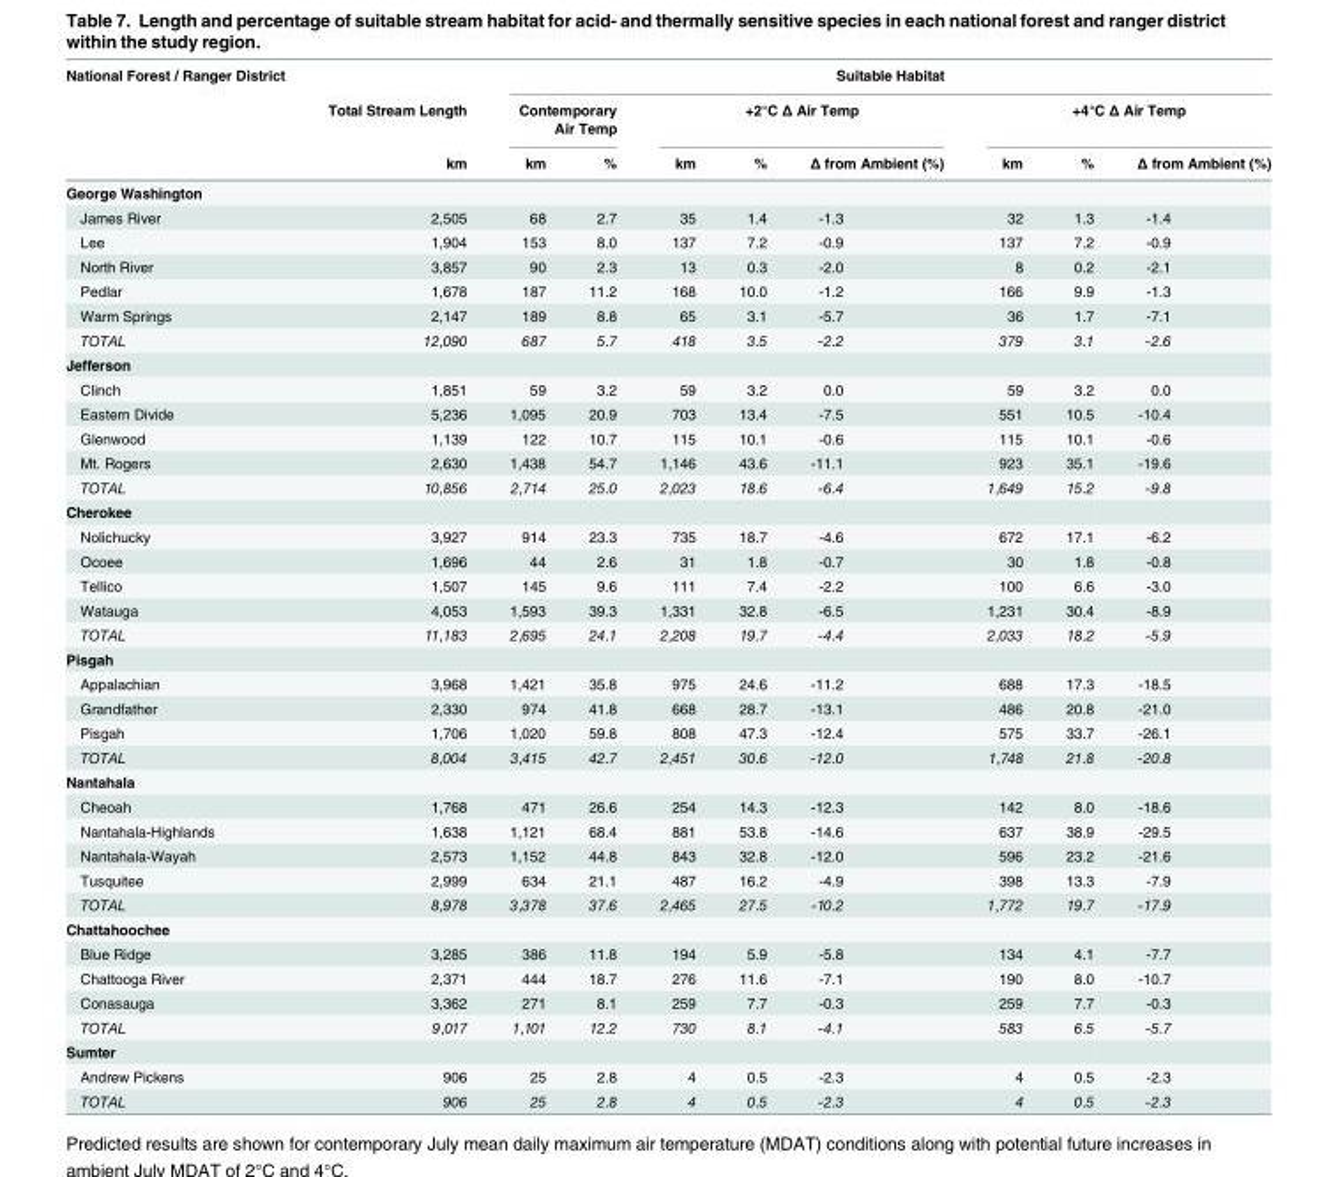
<table><thead><tr><td rowspan="3">National Forest / Ranger District</td><td rowspan="3">Total Stream Length km</td><td colspan="8">Suitable Habitat</td></tr><tr><td colspan="2">Contemporary Air Temp</td><td colspan="3">+2°C Δ Air Temp</td><td colspan="3">+4°C Δ Air Temp</td></tr><tr><td>km</td><td>%</td><td>km</td><td>%</td><td>Δ from Ambient (%)</td><td>km</td><td>%</td><td>Δ from Ambient (%)</td></tr></thead><tbody><tr><td colspan="10">George Washington</td></tr><tr><td>James River</td><td>2,505</td><td>68</td><td>2.7</td><td>35</td><td>1.4</td><td>-1.3</td><td>32</td><td>1.3</td><td>-1.4</td></tr><tr><td>Lee</td><td>1,904</td><td>153</td><td>8.0</td><td>137</td><td>7.2</td><td>-0.9</td><td>137</td><td>7.2</td><td>-0.9</td></tr><tr><td>North River</td><td>3,857</td><td>90</td><td>2.3</td><td>13</td><td>0.3</td><td>-2.0</td><td>8</td><td>0.2</td><td>-2.1</td></tr><tr><td>Pedlar</td><td>1,678</td><td>187</td><td>11.2</td><td>168</td><td>10.0</td><td>-1.2</td><td>166</td><td>9.9</td><td>-1.3</td></tr><tr><td>Warm Springs</td><td>2,147</td><td>189</td><td>8.8</td><td>65</td><td>3.1</td><td>-5.7</td><td>36</td><td>1.7</td><td>-7.1</td></tr><tr><td>TOTAL</td><td>12,090</td><td>687</td><td>5.7</td><td>418</td><td>3.5</td><td>-2.2</td><td>379</td><td>3.1</td><td>-2.6</td></tr><tr><td colspan="10">Jefferson</td></tr><tr><td>Clinch</td><td>1,851</td><td>59</td><td>3.2</td><td>59</td><td>3.2</td><td>0.0</td><td>59</td><td>3.2</td><td>0.0</td></tr><tr><td>Eastern Divide</td><td>5,236</td><td>1,095</td><td>20.9</td><td>703</td><td>13.4</td><td>-7.5</td><td>551</td><td>10.5</td><td>-10.4</td></tr><tr><td>Glenwood</td><td>1,139</td><td>122</td><td>10.7</td><td>115</td><td>10.1</td><td>-0.6</td><td>115</td><td>10.1</td><td>-0.6</td></tr><tr><td>Mt. Rogers</td><td>2,630</td><td>1,438</td><td>54.7</td><td>1,146</td><td>43.6</td><td>-11.1</td><td>923</td><td>35.1</td><td>-19.6</td></tr><tr><td>TOTAL</td><td>10,856</td><td>2,714</td><td>25.0</td><td>2,023</td><td>18.6</td><td>-6.4</td><td>1,649</td><td>15.2</td><td>-9.8</td></tr><tr><td colspan="10">Cherokee</td></tr><tr><td>Nolichucky</td><td>3,927</td><td>914</td><td>23.3</td><td>735</td><td>18.7</td><td>-4.6</td><td>672</td><td>17.1</td><td>-6.2</td></tr><tr><td>Ocoee</td><td>1,696</td><td>44</td><td>2.6</td><td>31</td><td>1.8</td><td>-0.7</td><td>30</td><td>1.8</td><td>-0.8</td></tr><tr><td>Tellico</td><td>1,507</td><td>145</td><td>9.6</td><td>111</td><td>7.4</td><td>-2.2</td><td>100</td><td>6.6</td><td>-3.0</td></tr><tr><td>Watauga</td><td>4,053</td><td>1,593</td><td>39.3</td><td>1,331</td><td>32.8</td><td>-6.5</td><td>1,231</td><td>30.4</td><td>-8.9</td></tr><tr><td>TOTAL</td><td>11,183</td><td>2,695</td><td>24.1</td><td>2,208</td><td>19.7</td><td>-4.4</td><td>2,033</td><td>18.2</td><td>-5.9</td></tr><tr><td colspan="10">Pisgah</td></tr><tr><td>Appalachian</td><td>3,968</td><td>1,421</td><td>35.8</td><td>975</td><td>24.6</td><td>-11.2</td><td>688</td><td>17.3</td><td>-18.5</td></tr><tr><td>Grandfather</td><td>2,330</td><td>974</td><td>41.8</td><td>668</td><td>28.7</td><td>-13.1</td><td>486</td><td>20.8</td><td>-21.0</td></tr><tr><td>Pisgah</td><td>1,706</td><td>1,020</td><td>59.8</td><td>808</td><td>47.3</td><td>-12.4</td><td>575</td><td>33.7</td><td>-26.1</td></tr><tr><td>TOTAL</td><td>8,004</td><td>3,415</td><td>42.7</td><td>2,451</td><td>30.6</td><td>-12.0</td><td>1,748</td><td>21.8</td><td>-20.8</td></tr><tr><td colspan="10">Nantahala</td></tr><tr><td>Cheoah</td><td>1,768</td><td>471</td><td>26.6</td><td>254</td><td>14.3</td><td>-12.3</td><td>142</td><td>8.0</td><td>-18.6</td></tr><tr><td>Nantahala-Highlands</td><td>1,638</td><td>1,121</td><td>68.4</td><td>881</td><td>53.8</td><td>-14.6</td><td>637</td><td>38.9</td><td>-29.5</td></tr><tr><td>Nantahala-Wayah</td><td>2,573</td><td>1,152</td><td>44.8</td><td>843</td><td>32.8</td><td>-12.0</td><td>596</td><td>23.2</td><td>-21.6</td></tr><tr><td>Tusquitee</td><td>2,999</td><td>634</td><td>21.1</td><td>487</td><td>16.2</td><td>-4.9</td><td>398</td><td>13.3</td><td>-7.9</td></tr><tr><td>TOTAL</td><td>8,978</td><td>3,378</td><td>37.6</td><td>2,465</td><td>27.5</td><td>-10.2</td><td>1,772</td><td>19.7</td><td>-17.9</td></tr><tr><td colspan="10">Chattahoochee</td></tr><tr><td>Blue Ridge</td><td>3,285</td><td>386</td><td>11.8</td><td>194</td><td>5.9</td><td>-5.8</td><td>134</td><td>4.1</td><td>-7.7</td></tr><tr><td>Chattooga River</td><td>2,371</td><td>444</td><td>18.7</td><td>276</td><td>11.6</td><td>-7.1</td><td>190</td><td>8.0</td><td>-10.7</td></tr><tr><td>Conasauga</td><td>3,362</td><td>271</td><td>8.1</td><td>259</td><td>7.7</td><td>-0.3</td><td>259</td><td>7.7</td><td>-0.3</td></tr><tr><td>TOTAL</td><td>9,017</td><td>1,101</td><td>12.2</td><td>730</td><td>8.1</td><td>-4.1</td><td>583</td><td>6.5</td><td>-5.7</td></tr><tr><td colspan="10">Sumter</td></tr><tr><td>Andrew Pickens</td><td>906</td><td>25</td><td>2.8</td><td>4</td><td>0.5</td><td>-2.3</td><td>4</td><td>0.5</td><td>-2.3</td></tr><tr><td>TOTAL</td><td>906</td><td>25</td><td>2.8</td><td>4</td><td>0.5</td><td>-2.3</td><td>4</td><td>0.5</td><td>-2.3</td></tr></tbody></table>